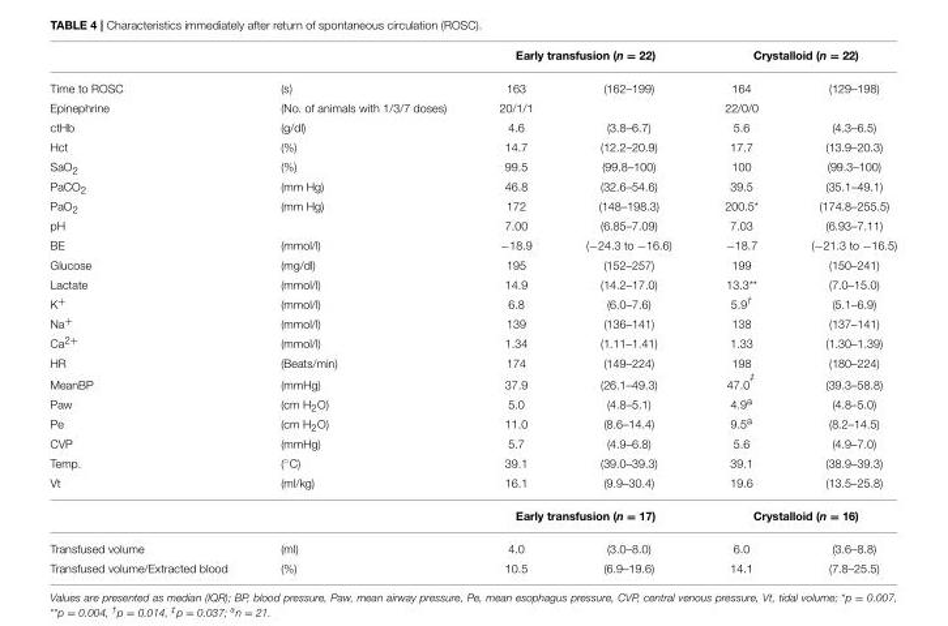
<table><thead><tr><td rowspan="2">Time to ROSC</td><td rowspan="2">(s)</td><td colspan="2">Early transfusion (n = 22)</td><td colspan="2">Crystalloid (n = 22)</td></tr><tr><td>163</td><td>(162–199)</td><td>164</td><td>(129–198)</td></tr></thead><tbody><tr><td>Epinephrine</td><td>(No. of animals with 1/3/7 doses)</td><td>20/1/1</td><td></td><td>22/0/0</td><td></td></tr><tr><td>ctHb</td><td>(g/dl)</td><td>4.6</td><td>(3.8–6.7)</td><td>5.6</td><td>(4.3–6.5)</td></tr><tr><td>Hct</td><td>(%)</td><td>14.7</td><td>(12.2–20.9)</td><td>17.7</td><td>(13.9–20.3)</td></tr><tr><td>SaO<sub>2</sub></td><td>(%)</td><td>99.5</td><td>(99.8–100)</td><td>100</td><td>(99.3–100)</td></tr><tr><td>PaCO<sub>2</sub></td><td>(mm Hg)</td><td>46.8</td><td>(32.6–54.6)</td><td>39.5</td><td>(35.1–49.1)</td></tr><tr><td>PaO<sub>2</sub></td><td>(mm Hg)</td><td>172</td><td>(148–198.3)</td><td>200.5*</td><td>(174.8–255.5)</td></tr><tr><td>pH</td><td></td><td>7.00</td><td>(6.85–7.09)</td><td>7.03</td><td>(6.93–7.11)</td></tr><tr><td>BE</td><td>(mmol/l)</td><td>−18.9</td><td>(−24.3 to −16.6)</td><td>−18.7</td><td>(−21.3 to −16.5)</td></tr><tr><td>Glucose</td><td>(mg/dl)</td><td>195</td><td>(152–257)</td><td>199</td><td>(150–241)</td></tr><tr><td>Lactate</td><td>(mmol/l)</td><td>14.9</td><td>(14.2–17.0)</td><td>13.3**</td><td>(7.0–15.0)</td></tr><tr><td>K<sup>+</sup></td><td>(mmol/l)</td><td>6.8</td><td>(6.0–7.6)</td><td>5.9<sup>†</sup></td><td>(5.1–6.9)</td></tr><tr><td>Na<sup>+</sup></td><td>(mmol/l)</td><td>139</td><td>(136–141)</td><td>138</td><td>(137–141)</td></tr><tr><td>Ca<sup>2+</sup></td><td>(mmol/l)</td><td>1.34</td><td>(1.11–1.41)</td><td>1.33</td><td>(1.30–1.39)</td></tr><tr><td>HR</td><td>(Beats/min)</td><td>174</td><td>(149–224)</td><td>198</td><td>(180–224)</td></tr><tr><td>MeanBP</td><td>(mmHg)</td><td>37.9</td><td>(26.1–49.3)</td><td>47.0 <sup>‡</sup></td><td>(39.3–58.8)</td></tr><tr><td>Paw</td><td>(cm H<sub>2</sub>O)</td><td>5.0</td><td>(4.8–5.1)</td><td>4.9<sup>a</sup></td><td>(4.8–5.0)</td></tr><tr><td>Pe</td><td>(cm H<sub>2</sub>O)</td><td>11.0</td><td>(8.6–14.4)</td><td>9.5<sup>a</sup></td><td>(8.2–14.5)</td></tr><tr><td>CVP</td><td>(mmHg)</td><td>5.7</td><td>(4.9–6.8)</td><td>5.6</td><td>(4.9–7.0)</td></tr><tr><td>Temp.</td><td>(◦C)</td><td>39.1</td><td>(39.0–39.3)</td><td>39.1</td><td>(38.9–39.3)</td></tr><tr><td rowspan="2">Vt</td><td>(ml/kg)</td><td>16.1</td><td>(9.9–30.4)</td><td>19.6</td><td>(13.5–25.8)</td></tr><tr><td></td><td colspan="2">Early transfusion (n = 17)</td><td colspan="2">Crystalloid (n = 16)</td></tr><tr><td>Transfused volume</td><td>(ml)</td><td>4.0</td><td>(3.0–8.0)</td><td>6.0</td><td>(3.6–8.8)</td></tr><tr><td>Transfused volume/Extracted blood</td><td>(%)</td><td>10.5</td><td>(6.9–19.6)</td><td>14.1</td><td>(7.8–25.5)</td></tr></tbody></table>